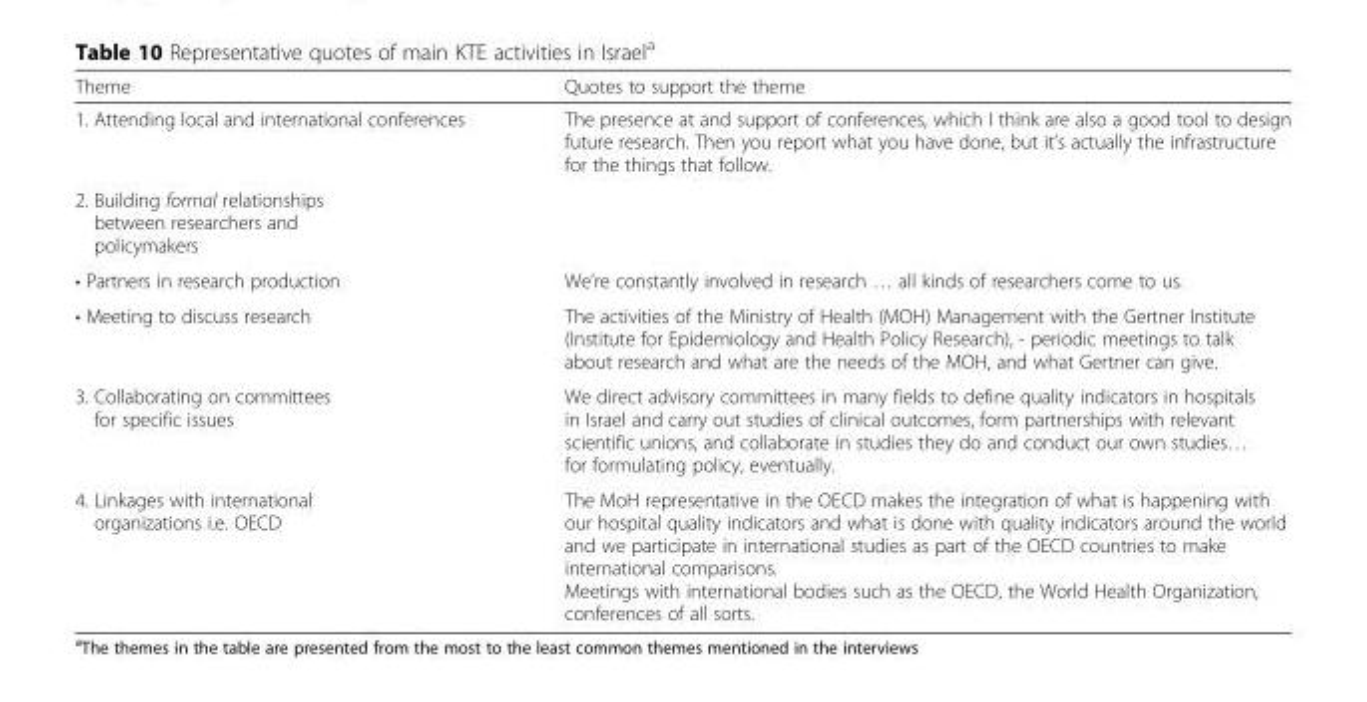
<table><thead><tr><td>Theme</td><td>Quotes to support the theme</td></tr></thead><tbody><tr><td>1. Attending local and international conferences</td><td>The presence at and support of conferences, which I think are also a good tool to design future research. Then you report what you have done, but it’s actually the infrastructure for the things that follow.</td></tr><tr><td colspan="2">2. Building formal relationships between researchers and policymakers</td></tr><tr><td>• Partners in research production</td><td>We’re constantly involved in research … all kinds of researchers come to us.</td></tr><tr><td>• Meeting to discuss research</td><td>The activities of the Ministry of Health (MOH) Management with the Gertner Institute (Institute for Epidemiology and Health Policy Research), - periodic meetings to talk about research and what are the needs of the MOH, and what Gertner can give.</td></tr><tr><td>3. Collaborating on committees for specific issues</td><td>We direct advisory committees in many fields to define quality indicators in hospitals in Israel and carry out studies of clinical outcomes, form partnerships with relevant scientific unions, and collaborate in studies they do and conduct our own studies… for formulating policy, eventually.</td></tr><tr><td>4. Linkages with international organizations i.e. OECD</td><td>The MoH representative in the OECD makes the integration of what is happening with our hospital quality indicators and what is done with quality indicators around the world and we participate in international studies as part of the OECD countries to make international comparisons. Meetings with international bodies such as the OECD, the World Health Organization, conferences of all sorts.</td></tr></tbody></table>